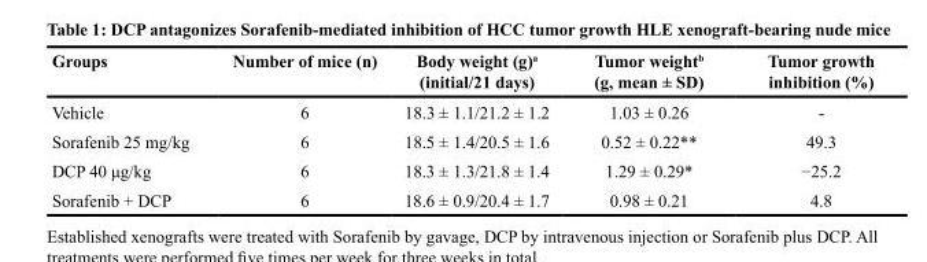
<table><thead><tr><td>Groups</td><td>Number of mice (n)</td><td>Body weight (g)<sup>a</sup> (initial/21 days)</td><td>Tumor weight<sup>b</sup> (g, mean ± SD)</td><td>Tumor growth inhibition (%)</td></tr></thead><tbody><tr><td>Vehicle</td><td>6</td><td>18.3 ± 1.1/21.2 ± 1.2</td><td>1.03 ± 0.26</td><td>-</td></tr><tr><td>Sorafenib 25 mg/kg</td><td>6</td><td>18.5 ± 1.4/20.5 ± 1.6</td><td>0.52 ± 0.22**</td><td>49.3</td></tr><tr><td>DCP 40 μg/kg</td><td>6</td><td>18.3 ± 1.3/21.8 ± 1.4</td><td>1.29 ± 0.29*</td><td>−25.2</td></tr><tr><td>Sorafenib + DCP</td><td>6</td><td>18.6 ± 0.9/20.4 ± 1.7</td><td>0.98 ± 0.21</td><td>4.8</td></tr></tbody></table>